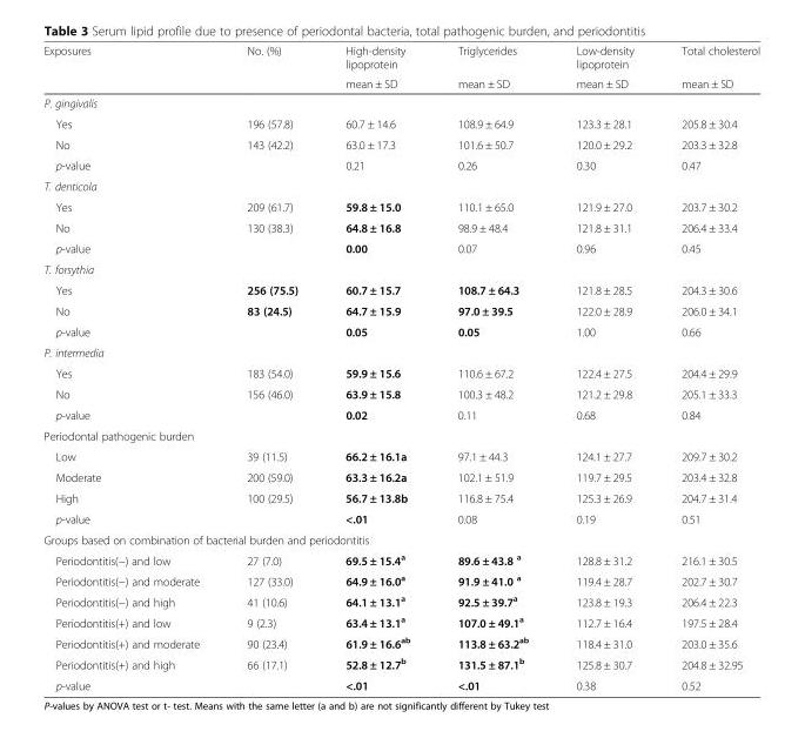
<table><thead><tr><td rowspan="2">Exposures</td><td rowspan="2">No. (%)</td><td rowspan="2">High-density lipoprotein mean ± SD</td><td rowspan="2">Triglycerides mean ± SD</td><td rowspan="2">Low-density lipoprotein mean ± SD</td><td rowspan="2">Total cholesterol mean ± SD</td></tr><tr></tr></thead><tbody><tr><td colspan="6">P. gingivalis</td></tr><tr><td>Yes</td><td>196 (57.8)</td><td>60.7 ± 14.6</td><td>108.9 ± 64.9</td><td>123.3 ± 28.1</td><td>205.8 ± 30.4</td></tr><tr><td>No</td><td>143 (42.2)</td><td>63.0 ± 17.3</td><td>101.6 ± 50.7</td><td>120.0 ± 29.2</td><td>203.3 ± 32.8</td></tr><tr><td>p-value</td><td></td><td>0.21</td><td>0.26</td><td>0.30</td><td>0.47</td></tr><tr><td colspan="6">T. denticola</td></tr><tr><td>Yes</td><td>209 (61.7)</td><td>59.8 ± 15.0</td><td>110.1 ± 65.0</td><td>121.9 ± 27.0</td><td>203.7 ± 30.2</td></tr><tr><td>No</td><td>130 (38.3)</td><td>64.8 ± 16.8</td><td>98.9 ± 48.4</td><td>121.8 ± 31.1</td><td>206.4 ± 33.4</td></tr><tr><td>p-value</td><td></td><td>0.00</td><td>0.07</td><td>0.96</td><td>0.45</td></tr><tr><td colspan="6">T. forsythia</td></tr><tr><td>Yes</td><td>256 (75.5)</td><td>60.7 ± 15.7</td><td>108.7 ± 64.3</td><td>121.8 ± 28.5</td><td>204.3 ± 30.6</td></tr><tr><td>No</td><td>83 (24.5)</td><td>64.7 ± 15.9</td><td>97.0 ± 39.5</td><td>122.0 ± 28.9</td><td>206.0 ± 34.1</td></tr><tr><td>p-value</td><td></td><td>0.05</td><td>0.05</td><td>1.00</td><td>0.66</td></tr><tr><td colspan="6">P. intermedia</td></tr><tr><td>Yes</td><td>183 (54.0)</td><td>59.9 ± 15.6</td><td>110.6 ± 67.2</td><td>122.4 ± 27.5</td><td>204.4 ± 29.9</td></tr><tr><td>No</td><td>156 (46.0)</td><td>63.9 ± 15.8</td><td>100.3 ± 48.2</td><td>121.2 ± 29.8</td><td>205.1 ± 33.3</td></tr><tr><td>p-value</td><td></td><td>0.02</td><td>0.11</td><td>0.68</td><td>0.84</td></tr><tr><td colspan="6">Periodontal pathogenic burden</td></tr><tr><td>Low</td><td>39 (11.5)</td><td>66.2 ± 16.1a</td><td>97.1 ± 44.3</td><td>124.1 ± 27.7</td><td>209.7 ± 30.2</td></tr><tr><td>Moderate</td><td>200 (59.0)</td><td>63.3 ± 16.2a</td><td>102.1 ± 51.9</td><td>119.7 ± 29.5</td><td>203.4 ± 32.8</td></tr><tr><td>High</td><td>100 (29.5)</td><td>56.7 ± 13.8b</td><td>116.8 ± 75.4</td><td>125.3 ± 26.9</td><td>204.7 ± 31.4</td></tr><tr><td>p-value</td><td></td><td>&lt;.01</td><td>0.08</td><td>0.19</td><td>0.51</td></tr><tr><td colspan="6">Groups based on combination of bacterial burden and periodontitis</td></tr><tr><td>Periodontitis(−) and low</td><td>27 (7.0)</td><td>69.5 ± 15.4<sup>a</sup></td><td>89.6 ± 43.8 <sup>a</sup></td><td>128.8 ± 31.2</td><td>216.1 ± 30.5</td></tr><tr><td>Periodontitis(−) and moderate</td><td>127 (33.0)</td><td>64.9 ± 16.0<sup>a</sup></td><td>91.9 ± 41.0 <sup>a</sup></td><td>119.4 ± 28.7</td><td>202.7 ± 30.7</td></tr><tr><td>Periodontitis(−) and high</td><td>41 (10.6)</td><td>64.1 ± 13.1<sup>a</sup></td><td>92.5 ± 39.7<sup>a</sup></td><td>123.8 ± 19.3</td><td>206.4 ± 22.3</td></tr><tr><td>Periodontitis(+) and low</td><td>9 (2.3)</td><td>63.4 ± 13.1<sup>a</sup></td><td>107.0 ± 49.1<sup>a</sup></td><td>112.7 ± 16.4</td><td>197.5 ± 28.4</td></tr><tr><td>Periodontitis(+) and moderate</td><td>90 (23.4)</td><td>61.9 ± 16.6<sup>ab</sup></td><td>113.8 ± 63.2<sup>ab</sup></td><td>118.4 ± 31.0</td><td>203.0 ± 35.6</td></tr><tr><td>Periodontitis(+) and high</td><td>66 (17.1)</td><td>52.8 ± 12.7<sup>b</sup></td><td>131.5 ± 87.1<sup>b</sup></td><td>125.8 ± 30.7</td><td>204.8 ± 32.95</td></tr><tr><td>p-value</td><td></td><td>&lt;.01</td><td>&lt;.01</td><td>0.38</td><td>0.52</td></tr></tbody></table>